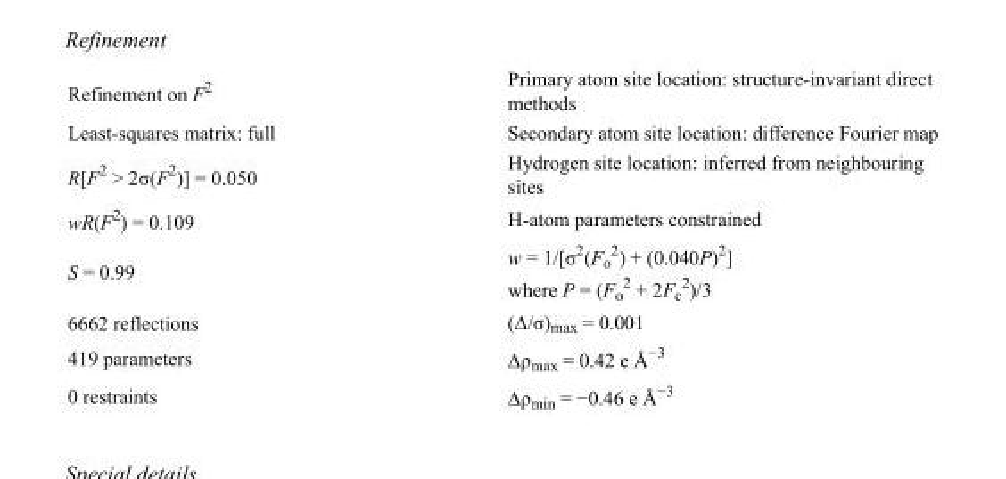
<table><tbody><tr><td>Refinement on F<sup>2</sup></td><td>Primary atom site location: structure-invariant direct methods</td></tr><tr><td>Least-squares matrix: full</td><td>Secondary atom site location: difference Fourier map</td></tr><tr><td>R[F<sup>2</sup> &gt; 2σ(F<sup>2</sup>)] = 0.050</td><td>Hydrogen site location: inferred from neighbouring sites</td></tr><tr><td>wR(F<sup>2</sup>) = 0.109</td><td>H-atom parameters constrained</td></tr><tr><td>S = 0.99</td><td>w = 1/[σ<sup>2</sup>(F<sub>o</sub> <sup>2</sup>) + (0.040P)<sup>2</sup>] where P = (F<sub>o</sub> <sup>2</sup> + 2F<sub>c</sub> <sup>2</sup>)/3</td></tr><tr><td>6662 reflections</td><td>(Δ/σ)<sub>max</sub> = 0.001</td></tr><tr><td>419 parameters</td><td>Δρ<sub>max</sub> = 0.42 e Å<sup>−3</sup></td></tr><tr><td>0 restraints</td><td>Δρ<sub>min</sub> = −0.46 e Å<sup>−3</sup></td></tr></tbody></table>